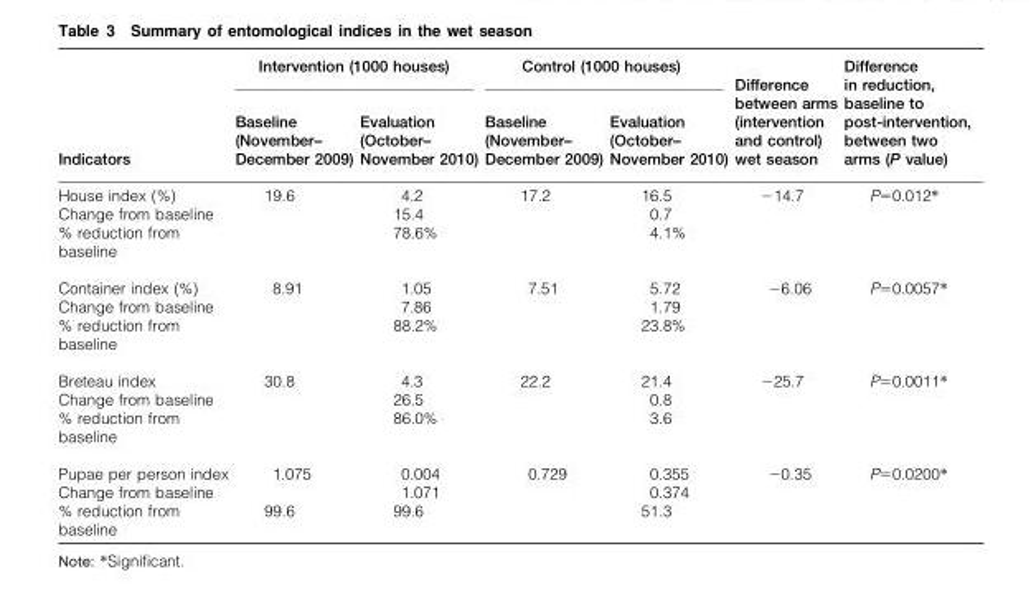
<table><thead><tr><td rowspan="2">Indicators</td><td colspan="2">Intervention (1000 houses)</td><td colspan="2">Control (1000 houses)</td><td rowspan="2">Difference between arms (intervention and control) wet season</td><td rowspan="2">Difference in reduction, baseline to post-intervention, between two arms (P value)</td></tr><tr><td>Baseline (November– December 2009)</td><td>Evaluation (October– November 2010)</td><td>Baseline (November– December 2009)</td><td>Evaluation (October– November 2010)</td></tr></thead><tbody><tr><td>House index (%)</td><td>19.6</td><td>4.2</td><td>17.2</td><td>16.5</td><td>−14.7</td><td>P=0.012*</td></tr><tr><td>Change from baseline</td><td></td><td>15.4</td><td></td><td>0.7</td><td></td><td></td></tr><tr><td>% reduction from baseline</td><td></td><td>78.6%</td><td></td><td>4.1%</td><td></td><td></td></tr><tr><td>Container index (%)</td><td>8.91</td><td>1.05</td><td>7.51</td><td>5.72</td><td>−6.06</td><td>P=0.0057*</td></tr><tr><td>Change from baseline</td><td></td><td>7.86</td><td></td><td>1.79</td><td></td><td></td></tr><tr><td>% reduction from baseline</td><td></td><td>88.2%</td><td></td><td>23.8%</td><td></td><td></td></tr><tr><td>Breteau index</td><td>30.8</td><td>4.3</td><td>22.2</td><td>21.4</td><td>−25.7</td><td>P=0.0011*</td></tr><tr><td>Change from baseline</td><td></td><td>26.5</td><td></td><td>0.8</td><td></td><td></td></tr><tr><td>% reduction from baseline</td><td></td><td>86.0%</td><td></td><td>3.6</td><td></td><td></td></tr><tr><td>Pupae per person index</td><td>1.075</td><td>0.004</td><td>0.729</td><td>0.355</td><td>−0.35</td><td>P=0.0200*</td></tr><tr><td>Change from baseline</td><td></td><td>1.071</td><td></td><td>0.374</td><td></td><td></td></tr><tr><td>% reduction from baseline</td><td>99.6</td><td>99.6</td><td></td><td>51.3</td><td></td><td></td></tr></tbody></table>